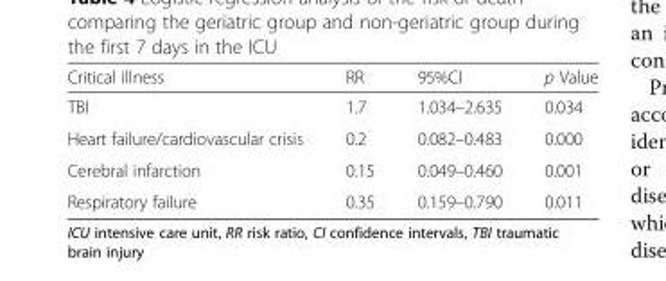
<table><thead><tr><td>Critical illness</td><td>RR</td><td>95%CI</td><td>p Value</td></tr></thead><tbody><tr><td>TBI</td><td>1.7</td><td>1.034–2.635</td><td>0.034</td></tr><tr><td>Heart failure/cardiovascular crisis</td><td>0.2</td><td>0.082–0.483</td><td>0.000</td></tr><tr><td>Cerebral infarction</td><td>0.15</td><td>0.049–0.460</td><td>0.001</td></tr><tr><td>Respiratory failure</td><td>0.35</td><td>0.159–0.790</td><td>0.011</td></tr></tbody></table>